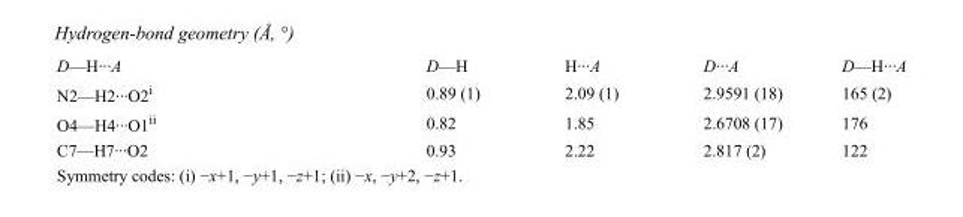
<table><tbody><tr><td>D—H···A</td><td>D—H</td><td>H···A</td><td>D···A</td><td>D—H···A</td></tr><tr><td>N2—H2···O2<sup>i</sup></td><td>0.89 (1)</td><td>2.09 (1)</td><td>2.9591 (18)</td><td>165 (2)</td></tr><tr><td>O4—H4···O1<sup>ii</sup></td><td>0.82</td><td>1.85</td><td>2.6708 (17)</td><td>176</td></tr><tr><td>C7—H7···O2</td><td>0.93</td><td>2.22</td><td>2.817 (2)</td><td>122</td></tr></tbody></table>